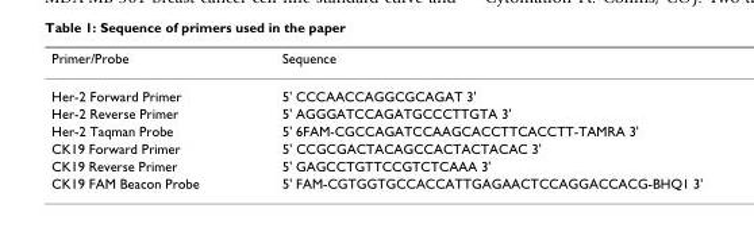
<table><thead><tr><td>Primer/Probe</td><td>Sequence</td></tr></thead><tbody><tr><td>Her-2 Forward Primer</td><td>5&#x27; CCCAACCAGGCGCAGAT 3&#x27;</td></tr><tr><td>Her-2 Reverse Primer</td><td>5&#x27; AGGGATCCAGATGCCCTTGTA 3&#x27;</td></tr><tr><td>Her-2 Taqman Probe</td><td>5&#x27; 6FAM-CGCCAGATCCAAGCACCTTCACCTT-TAMRA 3&#x27;</td></tr><tr><td>CK19 Forward Primer</td><td>5&#x27; CCGCGACTACAGCCACTACTACAC 3&#x27;</td></tr><tr><td>CK19 Reverse Primer</td><td>5&#x27; GAGCCTGTTCCGTCTCAAA 3&#x27;</td></tr><tr><td>CK19 FAM Beacon Probe</td><td>5&#x27; FAM-CGTGGTGCCACCATTGAGAACTCCAGGACCACG-BHQ1 3&#x27;</td></tr></tbody></table>